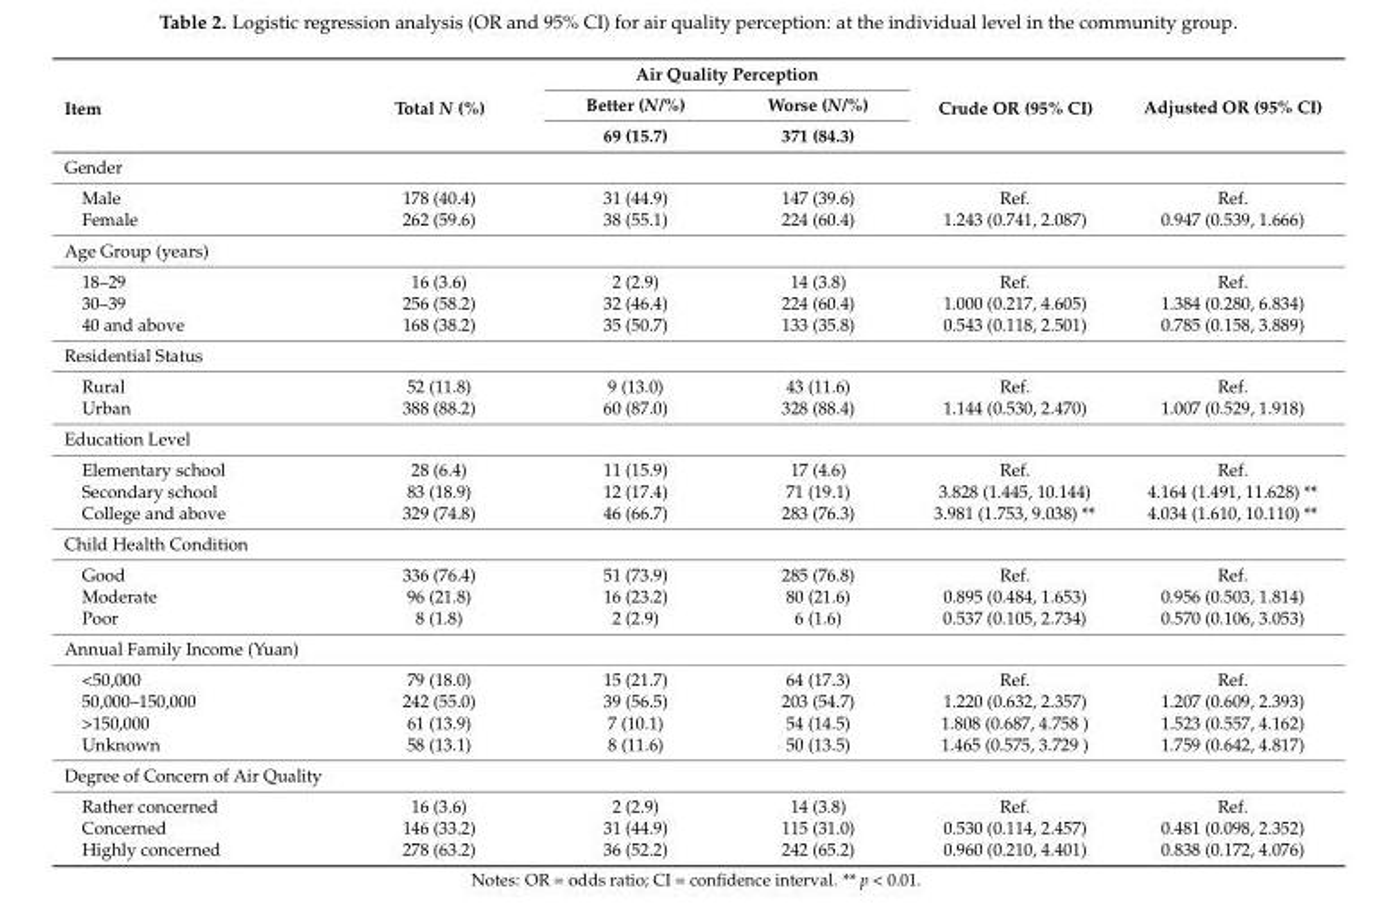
<table><thead><tr><td rowspan="3">Item</td><td rowspan="3">Total N (%)</td><td colspan="2">Air Quality Perception</td><td rowspan="3">Crude OR (95% CI)</td><td rowspan="3">Adjusted OR (95% CI)</td></tr><tr><td rowspan="2">Better (N/%) 69 (15.7)</td><td rowspan="2">Worse (N/%) 371 (84.3)</td></tr><tr></tr></thead><tbody><tr><td colspan="6">Gender</td></tr><tr><td>Male</td><td>178 (40.4)</td><td>31 (44.9)</td><td>147 (39.6)</td><td>Ref.</td><td>Ref.</td></tr><tr><td>Female</td><td>262 (59.6)</td><td>38 (55.1)</td><td>224 (60.4)</td><td>1.243 (0.741, 2.087)</td><td>0.947 (0.539, 1.666)</td></tr><tr><td colspan="6">Age Group (years)</td></tr><tr><td>18–29</td><td>16 (3.6)</td><td>2 (2.9)</td><td>14 (3.8)</td><td>Ref.</td><td>Ref.</td></tr><tr><td>30–39</td><td>256 (58.2)</td><td>32 (46.4)</td><td>224 (60.4)</td><td>1.000 (0.217, 4.605)</td><td>1.384 (0.280, 6.834)</td></tr><tr><td>40 and above</td><td>168 (38.2)</td><td>35 (50.7)</td><td>133 (35.8)</td><td>0.543 (0.118, 2.501)</td><td>0.785 (0.158, 3.889)</td></tr><tr><td colspan="6">Residential Status</td></tr><tr><td>Rural</td><td>52 (11.8)</td><td>9 (13.0)</td><td>43 (11.6)</td><td>Ref.</td><td>Ref.</td></tr><tr><td>Urban</td><td>388 (88.2)</td><td>60 (87.0)</td><td>328 (88.4)</td><td>1.144 (0.530, 2.470)</td><td>1.007 (0.529, 1.918)</td></tr><tr><td colspan="6">Education Level</td></tr><tr><td>Elementary school</td><td>28 (6.4)</td><td>11 (15.9)</td><td>17 (4.6)</td><td>Ref.</td><td>Ref.</td></tr><tr><td>Secondary school</td><td>83 (18.9)</td><td>12 (17.4)</td><td>71 (19.1)</td><td>3.828 (1.445, 10.144)</td><td>4.164 (1.491, 11.628) **</td></tr><tr><td>College and above</td><td>329 (74.8)</td><td>46 (66.7)</td><td>283 (76.3)</td><td>3.981 (1.753, 9.038) **</td><td>4.034 (1.610, 10.110) **</td></tr><tr><td colspan="6">Child Health Condition</td></tr><tr><td>Good</td><td>336 (76.4)</td><td>51 (73.9)</td><td>285 (76.8)</td><td>Ref.</td><td>Ref.</td></tr><tr><td>Moderate</td><td>96 (21.8)</td><td>16 (23.2)</td><td>80 (21.6)</td><td>0.895 (0.484, 1.653)</td><td>0.956 (0.503, 1.814)</td></tr><tr><td>Poor</td><td>8 (1.8)</td><td>2 (2.9)</td><td>6 (1.6)</td><td>0.537 (0.105, 2.734)</td><td>0.570 (0.106, 3.053)</td></tr><tr><td colspan="6">Annual Family Income (Yuan)</td></tr><tr><td>&lt;50,000</td><td>79 (18.0)</td><td>15 (21.7)</td><td>64 (17.3)</td><td>Ref.</td><td>Ref.</td></tr><tr><td>50,000–150,000</td><td>242 (55.0)</td><td>39 (56.5)</td><td>203 (54.7)</td><td>1.220 (0.632, 2.357)</td><td>1.207 (0.609, 2.393)</td></tr><tr><td>&gt;150,000</td><td>61 (13.9)</td><td>7 (10.1)</td><td>54 (14.5)</td><td>1.808 (0.687, 4.758 )</td><td>1.523 (0.557, 4.162)</td></tr><tr><td>Unknown</td><td>58 (13.1)</td><td>8 (11.6)</td><td>50 (13.5)</td><td>1.465 (0.575, 3.729 )</td><td>1.759 (0.642, 4.817)</td></tr><tr><td colspan="6">Degree of Concern of Air Quality</td></tr><tr><td>Rather concerned</td><td>16 (3.6)</td><td>2 (2.9)</td><td>14 (3.8)</td><td>Ref.</td><td>Ref.</td></tr><tr><td>Concerned</td><td>146 (33.2)</td><td>31 (44.9)</td><td>115 (31.0)</td><td>0.530 (0.114, 2.457)</td><td>0.481 (0.098, 2.352)</td></tr><tr><td>Highly concerned</td><td>278 (63.2)</td><td>36 (52.2)</td><td>242 (65.2)</td><td>0.960 (0.210, 4.401)</td><td>0.838 (0.172, 4.076)</td></tr></tbody></table>